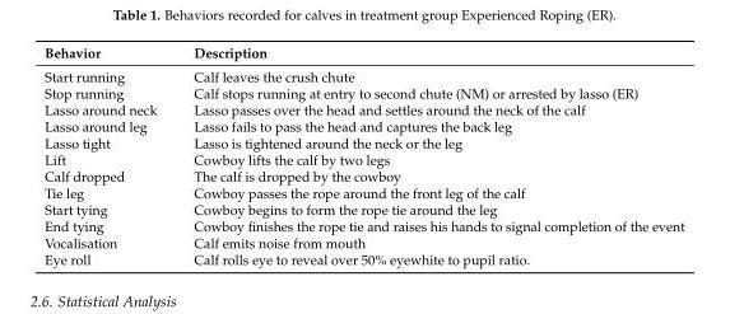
<table><thead><tr><td>Behavior</td><td>Description</td></tr></thead><tbody><tr><td>Start running</td><td>Calf leaves the crush chute</td></tr><tr><td>Stop running</td><td>Calf stops running at entry to second chute (NM) or arrested by lasso (ER)</td></tr><tr><td>Lasso around neck</td><td>Lasso passes over the head and settles around the neck of the calf</td></tr><tr><td>Lasso around leg</td><td>Lasso fails to pass the head and captures the back leg</td></tr><tr><td>Lasso tight</td><td>Lasso is tightened around the neck or the leg</td></tr><tr><td>Lift</td><td>Cowboy lifts the calf by two legs</td></tr><tr><td>Calf dropped</td><td>The calf is dropped by the cowboy</td></tr><tr><td>Tie leg</td><td>Cowboy passes the rope around the front leg of the calf</td></tr><tr><td>Start tying</td><td>Cowboy begins to form the rope tie around the leg</td></tr><tr><td>End tying</td><td>Cowboy finishes the rope tie and raises his hands to signal completion of the event</td></tr><tr><td>Vocalisation</td><td>Calf emits noise from mouth</td></tr><tr><td>Eye roll</td><td>Calf rolls eye to reveal over 50% eyewhite to pupil ratio.</td></tr></tbody></table>